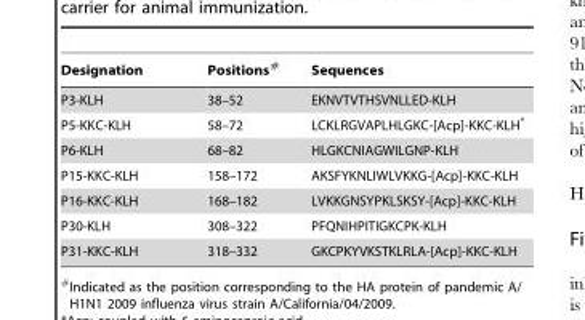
<table><thead><tr><td>Designation</td><td>Positions#</td><td>Sequences</td></tr></thead><tbody><tr><td>P3-KLH</td><td>38–52</td><td>EKNVTVTHSVNLLED-KLH</td></tr><tr><td>P5-KKC-KLH</td><td>58–72</td><td>LCKLRGVAPLHLGKC-[Acp]-KKC-KLH*</td></tr><tr><td>P6-KLH</td><td>68–82</td><td>HLGKCNIAGWILGNP-KLH</td></tr><tr><td>P15-KKC-KLH</td><td>158–172</td><td>AKSFYKNLIWLVKKG-[Acp]-KKC-KLH</td></tr><tr><td>P16-KKC-KLH</td><td>168–182</td><td>LVKKGNSYPKLSKSY-[Acp]-KKC-KLH</td></tr><tr><td>P30-KLH</td><td>308–322</td><td>PFQNIHPITIGKCPK-KLH</td></tr><tr><td>P31-KKC-KLH</td><td>318–332</td><td>GKCPKYVKSTKLRLA-[Acp]-KKC-KLH</td></tr></tbody></table>